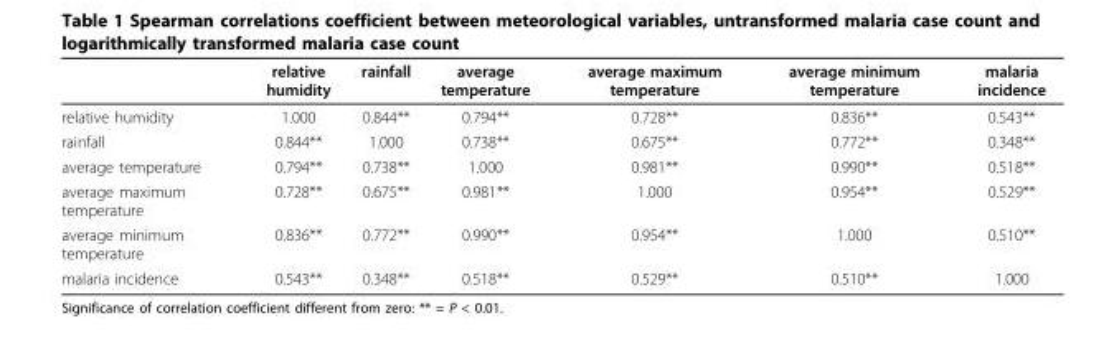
<table><thead><tr><td></td><td>relative humidity</td><td>rainfall</td><td>average temperature</td><td>average maximum temperature</td><td>average minimum temperature</td><td>malaria incidence</td></tr></thead><tbody><tr><td>relative humidity</td><td>1.000</td><td>0.844**</td><td>0.794**</td><td>0.728**</td><td>0.836**</td><td>0.543**</td></tr><tr><td>rainfall</td><td>0.844**</td><td>1.000</td><td>0.738**</td><td>0.675**</td><td>0.772**</td><td>0.348**</td></tr><tr><td>average temperature</td><td>0.794**</td><td>0.738**</td><td>1.000</td><td>0.981**</td><td>0.990**</td><td>0.518**</td></tr><tr><td>average maximum temperature</td><td>0.728**</td><td>0.675**</td><td>0.981**</td><td>1.000</td><td>0.954**</td><td>0.529**</td></tr><tr><td>average minimum temperature</td><td>0.836**</td><td>0.772**</td><td>0.990**</td><td>0.954**</td><td>1.000</td><td>0.510**</td></tr><tr><td>malaria incidence</td><td>0.543**</td><td>0.348**</td><td>0.518**</td><td>0.529**</td><td>0.510**</td><td>1.000</td></tr></tbody></table>